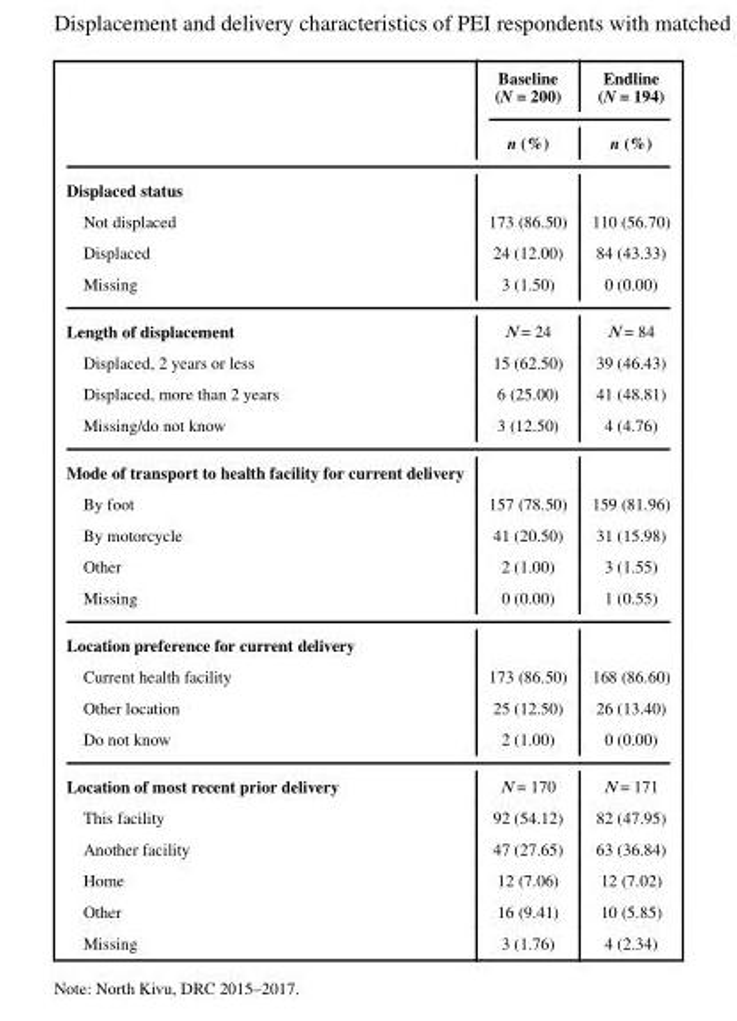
<table><thead><tr><td rowspan="2"></td><td rowspan="2">Baseline (N = 200) n (%)</td><td rowspan="2">Endline (N = 194) n (%)</td></tr><tr></tr></thead><tbody><tr><td colspan="3">Displaced status</td></tr><tr><td>Not displaced</td><td>173 (86.50)</td><td>110 (56.70)</td></tr><tr><td>Displaced</td><td>24 (12.00)</td><td>84 (43.33)</td></tr><tr><td>Missing</td><td>3 (1.50)</td><td>0 (0.00)</td></tr><tr><td>Length of displacement</td><td>N = 24</td><td>N = 84</td></tr><tr><td>Displaced, 2 years or less</td><td>15 (62.50)</td><td>39 (46.43)</td></tr><tr><td>Displaced, more than 2 years</td><td>6 (25.00)</td><td>41 (48.81)</td></tr><tr><td>Missing/do not know</td><td>3 (12.50)</td><td>4 (4.76)</td></tr><tr><td colspan="3">Mode of transport to health facility for current delivery</td></tr><tr><td>By foot</td><td>157 (78.50)</td><td>159 (81.96)</td></tr><tr><td>By motorcycle</td><td>41 (20.50)</td><td>31 (15.98)</td></tr><tr><td>Other</td><td>2 (1.00)</td><td>3 (1.55)</td></tr><tr><td>Missing</td><td>0 (0.00)</td><td>1 (0.55)</td></tr><tr><td colspan="3">Location preference for current delivery</td></tr><tr><td>Current health facility</td><td>173 (86.50)</td><td>168 (86.60)</td></tr><tr><td>Other location</td><td>25 (12.50)</td><td>26 (13.40)</td></tr><tr><td>Do not know</td><td>2 (1.00)</td><td>0 (0.00)</td></tr><tr><td>Location of most recent prior delivery</td><td>N = 170</td><td>N = 171</td></tr><tr><td>This facility</td><td>92 (54.12)</td><td>82 (47.95)</td></tr><tr><td>Another facility</td><td>47 (27.65)</td><td>63 (36.84)</td></tr><tr><td>Home</td><td>12 (7.06)</td><td>12 (7.02)</td></tr><tr><td>Other</td><td>16 (9.41)</td><td>10 (5.85)</td></tr><tr><td>Missing</td><td>3 (1.76)</td><td>4 (2.34)</td></tr></tbody></table>